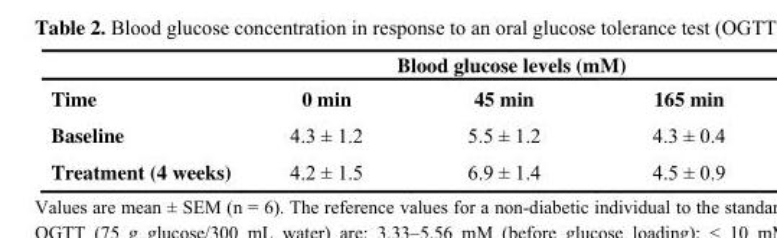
<table><thead><tr><td rowspan="2">Time</td><td colspan="3">Blood glucose levels (mM)</td></tr><tr><td>0 min</td><td>45 min</td><td>165 min</td></tr></thead><tbody><tr><td>Baseline</td><td>4.3 ± 1.2</td><td>5.5 ± 1.2</td><td>4.3 ± 0.4</td></tr><tr><td>Treatment (4 weeks)</td><td>4.2 ± 1.5</td><td>6.9 ± 1.4</td><td>4.5 ± 0.9</td></tr></tbody></table>